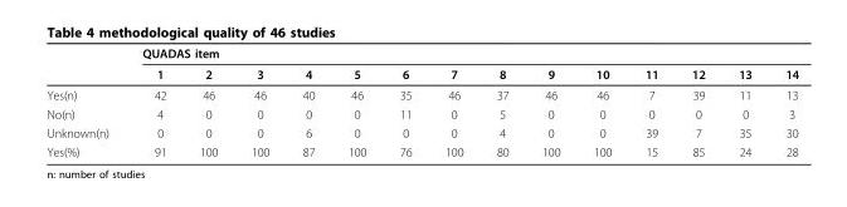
<table><thead><tr><td rowspan="2"></td><td colspan="14">QUADAS item</td></tr><tr><td>1</td><td>2</td><td>3</td><td>4</td><td>5</td><td>6</td><td>7</td><td>8</td><td>9</td><td>10</td><td>11</td><td>12</td><td>13</td><td>14</td></tr></thead><tbody><tr><td>Yes(n)</td><td>42</td><td>46</td><td>46</td><td>40</td><td>46</td><td>35</td><td>46</td><td>37</td><td>46</td><td>46</td><td>7</td><td>39</td><td>11</td><td>13</td></tr><tr><td>No(n)</td><td>4</td><td>0</td><td>0</td><td>0</td><td>0</td><td>11</td><td>0</td><td>5</td><td>0</td><td>0</td><td>0</td><td>0</td><td>0</td><td>3</td></tr><tr><td>Unknown(n)</td><td>0</td><td>0</td><td>0</td><td>6</td><td>0</td><td>0</td><td>0</td><td>4</td><td>0</td><td>0</td><td>39</td><td>7</td><td>35</td><td>30</td></tr><tr><td>Yes(%)</td><td>91</td><td>100</td><td>100</td><td>87</td><td>100</td><td>76</td><td>100</td><td>80</td><td>100</td><td>100</td><td>15</td><td>85</td><td>24</td><td>28</td></tr></tbody></table>